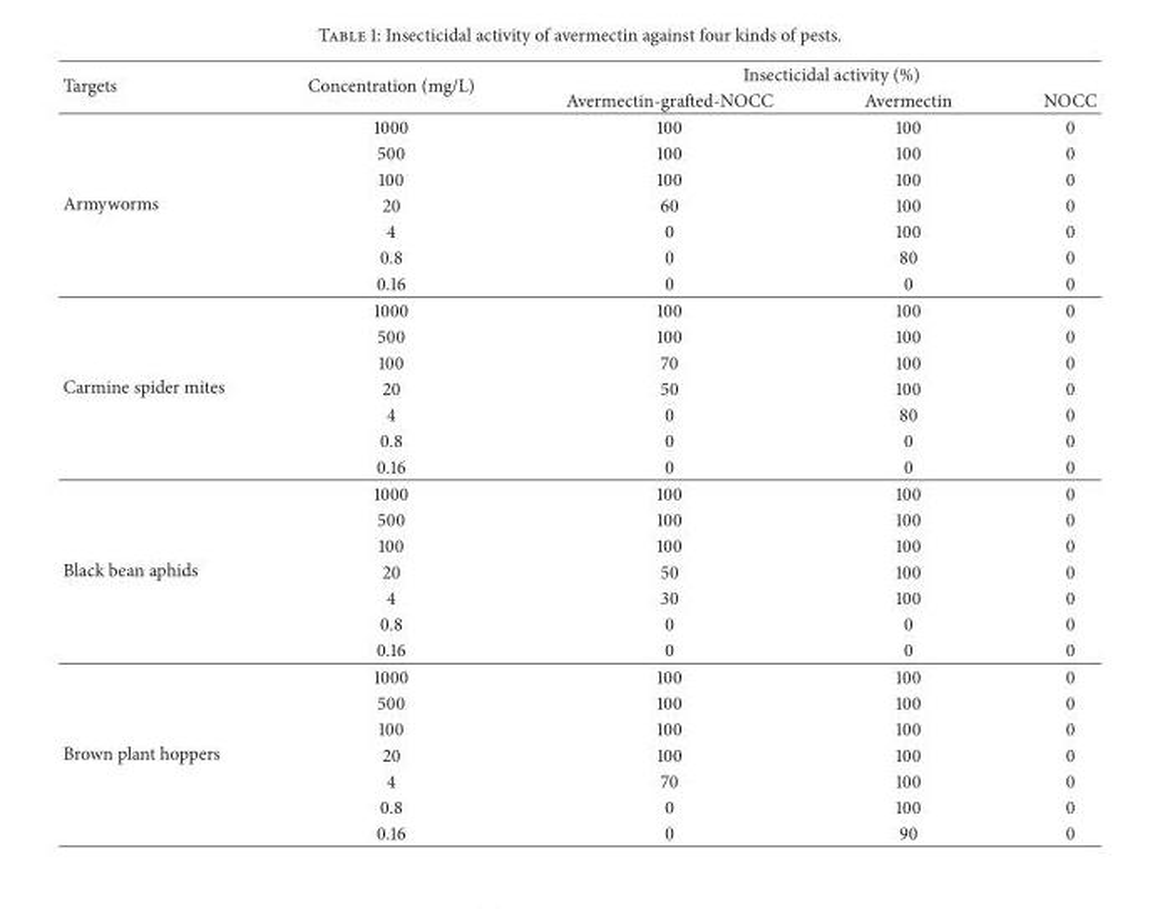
<table><thead><tr><td rowspan="2">Targets</td><td rowspan="2">Concentration (mg/L)</td><td colspan="3">Insecticidal activity (%)</td></tr><tr><td>Avermectin-grafted-NOCC</td><td>Avermectin</td><td>NOCC</td></tr></thead><tbody><tr><td rowspan="7">Armyworms</td><td>1000</td><td>100</td><td>100</td><td>0</td></tr><tr><td>500</td><td>100</td><td>100</td><td>0</td></tr><tr><td>100</td><td>100</td><td>100</td><td>0</td></tr><tr><td>20</td><td>60</td><td>100</td><td>0</td></tr><tr><td>4</td><td>0</td><td>100</td><td>0</td></tr><tr><td>0.8</td><td>0</td><td>80</td><td>0</td></tr><tr><td>0.16</td><td>0</td><td>0</td><td>0</td></tr><tr><td rowspan="7">Carmine spider mites</td><td>1000</td><td>100</td><td>100</td><td>0</td></tr><tr><td>500</td><td>100</td><td>100</td><td>0</td></tr><tr><td>100</td><td>70</td><td>100</td><td>0</td></tr><tr><td>20</td><td>50</td><td>100</td><td>0</td></tr><tr><td>4</td><td>0</td><td>80</td><td>0</td></tr><tr><td>0.8</td><td>0</td><td>0</td><td>0</td></tr><tr><td>0.16</td><td>0</td><td>0</td><td>0</td></tr><tr><td rowspan="7">Black bean aphids</td><td>1000</td><td>100</td><td>100</td><td>0</td></tr><tr><td>500</td><td>100</td><td>100</td><td>0</td></tr><tr><td>100</td><td>100</td><td>100</td><td>0</td></tr><tr><td>20</td><td>50</td><td>100</td><td>0</td></tr><tr><td>4</td><td>30</td><td>100</td><td>0</td></tr><tr><td>0.8</td><td>0</td><td>0</td><td>0</td></tr><tr><td>0.16</td><td>0</td><td>0</td><td>0</td></tr><tr><td rowspan="7">Brown plant hoppers</td><td>1000</td><td>100</td><td>100</td><td>0</td></tr><tr><td>500</td><td>100</td><td>100</td><td>0</td></tr><tr><td>100</td><td>100</td><td>100</td><td>0</td></tr><tr><td>20</td><td>100</td><td>100</td><td>0</td></tr><tr><td>4</td><td>70</td><td>100</td><td>0</td></tr><tr><td>0.8</td><td>0</td><td>100</td><td>0</td></tr><tr><td>0.16</td><td>0</td><td>90</td><td>0</td></tr></tbody></table>